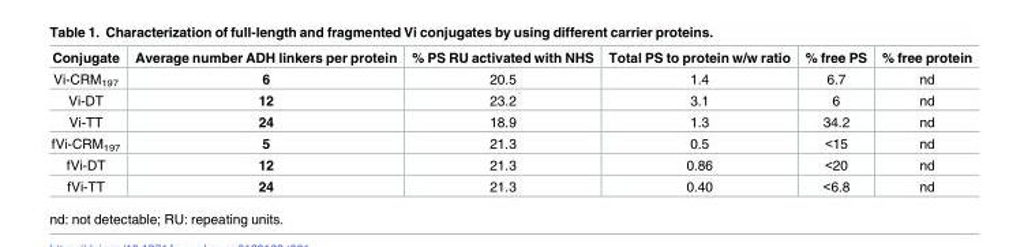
<table><thead><tr><td>Conjugate</td><td>Average number ADH linkers per protein</td><td>% PS RU activated with NHS</td><td>Total PS to protein w/w ratio</td><td>% free PS</td><td>% free protein</td></tr></thead><tbody><tr><td>Vi-CRM<sub>197</sub></td><td>6</td><td>20.5</td><td>1.4</td><td>6.7</td><td>nd</td></tr><tr><td>Vi-DT</td><td>12</td><td>23.2</td><td>3.1</td><td>6</td><td>nd</td></tr><tr><td>Vi-TT</td><td>24</td><td>18.9</td><td>1.3</td><td>34.2</td><td>nd</td></tr><tr><td>fVi-CRM<sub>197</sub></td><td>5</td><td>21.3</td><td>0.5</td><td>&lt;15</td><td>nd</td></tr><tr><td>fVi-DT</td><td>12</td><td>21.3</td><td>0.86</td><td>&lt;20</td><td>nd</td></tr><tr><td>fVi-TT</td><td>24</td><td>21.3</td><td>0.40</td><td>&lt;6.8</td><td>nd</td></tr></tbody></table>